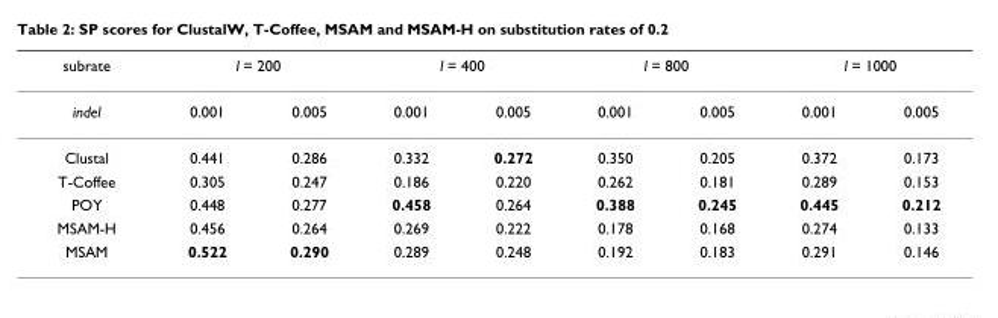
<table><thead><tr><td rowspan="2">subrate indel</td><td colspan="2">l = 200</td><td colspan="2">l = 400</td><td colspan="2">l = 800</td><td colspan="2">l = 1000</td></tr><tr><td>0.001</td><td>0.005</td><td>0.001</td><td>0.005</td><td>0.001</td><td>0.005</td><td>0.001</td><td>0.005</td></tr></thead><tbody><tr><td>Clustal</td><td>0.441</td><td>0.286</td><td>0.332</td><td>0.272</td><td>0.350</td><td>0.205</td><td>0.372</td><td>0.173</td></tr><tr><td>T-Coffee</td><td>0.305</td><td>0.247</td><td>0.186</td><td>0.220</td><td>0.262</td><td>0.181</td><td>0.289</td><td>0.153</td></tr><tr><td>POY</td><td>0.448</td><td>0.277</td><td>0.458</td><td>0.264</td><td>0.388</td><td>0.245</td><td>0.445</td><td>0.212</td></tr><tr><td>MSAM-H</td><td>0.456</td><td>0.264</td><td>0.269</td><td>0.222</td><td>0.178</td><td>0.168</td><td>0.274</td><td>0.133</td></tr><tr><td>MSAM</td><td>0.522</td><td>0.290</td><td>0.289</td><td>0.248</td><td>0.192</td><td>0.183</td><td>0.291</td><td>0.146</td></tr></tbody></table>